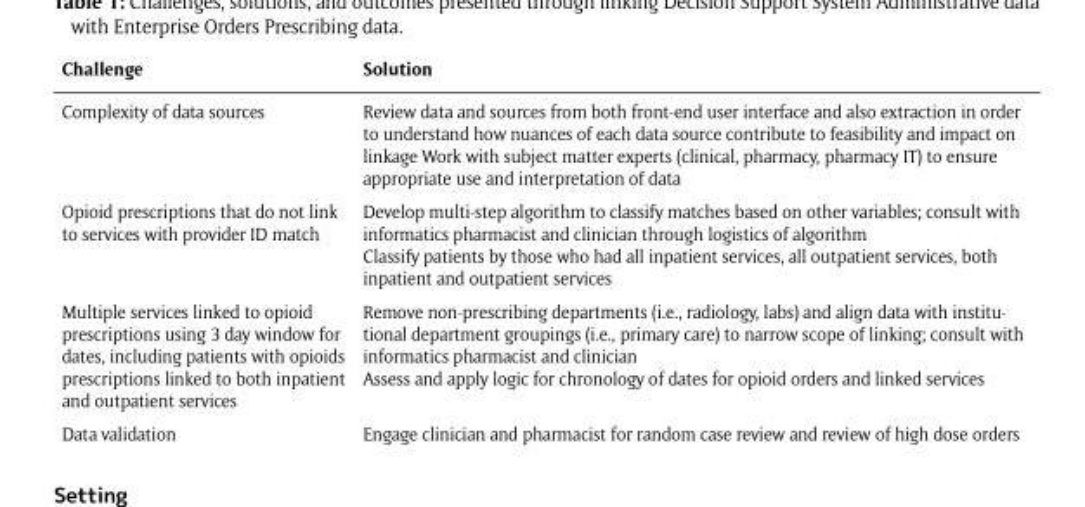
<table><thead><tr><td>Challenge</td><td>Solution</td></tr></thead><tbody><tr><td>Complexity of data sources</td><td>Review data and sources from both front-end user interface and also extraction in order to understand how nuances of each data source contribute to feasibility and impact on linkage Work with subject matter experts (clinical, pharmacy, pharmacy IT) to ensure appropriate use and interpretation of data</td></tr><tr><td>Opioid prescriptions that do not link to services with provider ID match</td><td>Develop multi-step algorithm to classify matches based on other variables; consult with informatics pharmacist and clinician through logistics of algorithm Classify patients by those who had all inpatient services, all outpatient services, both inpatient and outpatient services</td></tr><tr><td>Multiple services linked to opioid prescriptions using 3 day window for dates, including patients with opioids prescriptions linked to both inpatient and outpatient services</td><td>Remove non-prescribing departments (i.e., radiology, labs) and align data with institu- tional department groupings (i.e., primary care) to narrow scope of linking; consult with informatics pharmacist and clinician Assess and apply logic for chronology of dates for opioid orders and linked services</td></tr><tr><td>Data validation</td><td>Engage clinician and pharmacist for random case review and review of high dose orders</td></tr></tbody></table>